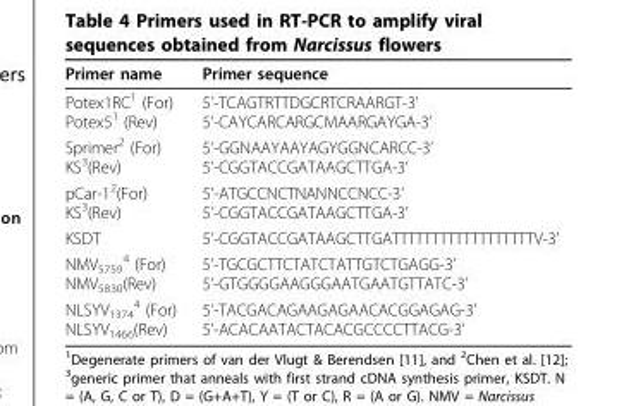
<table><thead><tr><td>Primer name</td><td>Primer sequence</td></tr></thead><tbody><tr><td>Potex1RC<sup>1</sup> (For) Potex5<sup>1</sup> (Rev)</td><td>5’-TCAGTRTTDGCRTCRAARGT-3’ 5’-CAYCARCARGCMAARGAYGA-3’</td></tr><tr><td>Sprimer<sup>2</sup> (For) KS<sup>3</sup>(Rev)</td><td>5’-GGNAAYAAYAGYGGNCARCC-3’ 5’-CGGTACCGATAAGCTTGA-3’</td></tr><tr><td>pCar-1<sup>2</sup>(For) KS<sup>3</sup>(Rev)</td><td>5’-ATGCCNCTNANNCCNCC-3’ 5’-CGGTACCGATAAGCTTGA-3’</td></tr><tr><td>KSDT</td><td>5’-CGGTACCGATAAGCTTGATTTTTTTTTTTTTTTTTTV-3’</td></tr><tr><td>NMV<sub>5759</sub> <sup>4</sup> (For) NMV<sub>5830</sub>(Rev)</td><td>5’-TGCGCTTCTATCTATTGTCTGAGG-3’ 5’-GTGGGGAAGGGAATGAATGTTATC-3’</td></tr><tr><td>NLSYV<sub>1374</sub> <sup>4</sup> (For) NLSYV<sub>1466</sub>(Rev)</td><td>5’-TACGACAGAAGAGAACACGGAGAG-3’ 5’-ACACAATACTACACGCCCCTTACG-3’</td></tr></tbody></table>